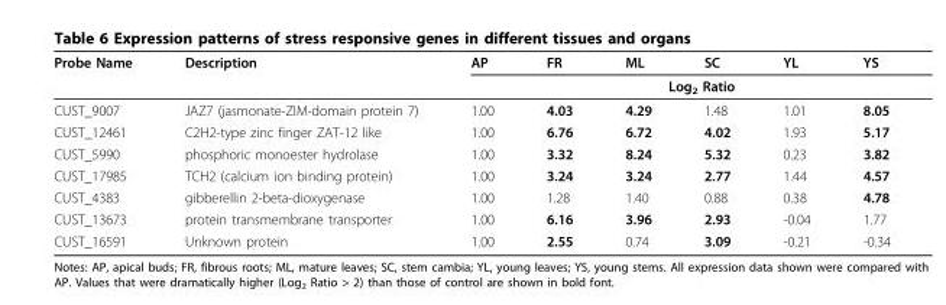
<table><thead><tr><td rowspan="2">Probe Name</td><td rowspan="2">Description</td><td>AP</td><td>FR</td><td>ML</td><td>SC</td><td>YL</td><td>YS</td></tr><tr><td colspan="6">Log<sub>2</sub> Ratio</td></tr></thead><tbody><tr><td>CUST_9007</td><td>JAZ7 (jasmonate-ZIM-domain protein 7)</td><td>1.00</td><td>4.03</td><td>4.29</td><td>1.48</td><td>1.01</td><td>8.05</td></tr><tr><td>CUST_12461</td><td>C2H2-type zinc finger ZAT-12 like</td><td>1.00</td><td>6.76</td><td>6.72</td><td>4.02</td><td>1.93</td><td>5.17</td></tr><tr><td>CUST_5990</td><td>phosphoric monoester hydrolase</td><td>1.00</td><td>3.32</td><td>8.24</td><td>5.32</td><td>0.23</td><td>3.82</td></tr><tr><td>CUST_17985</td><td>TCH2 (calcium ion binding protein)</td><td>1.00</td><td>3.24</td><td>3.24</td><td>2.77</td><td>1.44</td><td>4.57</td></tr><tr><td>CUST_4383</td><td>gibberellin 2-beta-dioxygenase</td><td>1.00</td><td>1.28</td><td>1.40</td><td>0.88</td><td>0.38</td><td>4.78</td></tr><tr><td>CUST_13673</td><td>protein transmembrane transporter</td><td>1.00</td><td>6.16</td><td>3.96</td><td>2.93</td><td>-0.04</td><td>1.77</td></tr><tr><td>CUST_16591</td><td>Unknown protein</td><td>1.00</td><td>2.55</td><td>0.74</td><td>3.09</td><td>-0.21</td><td>-0.34</td></tr></tbody></table>